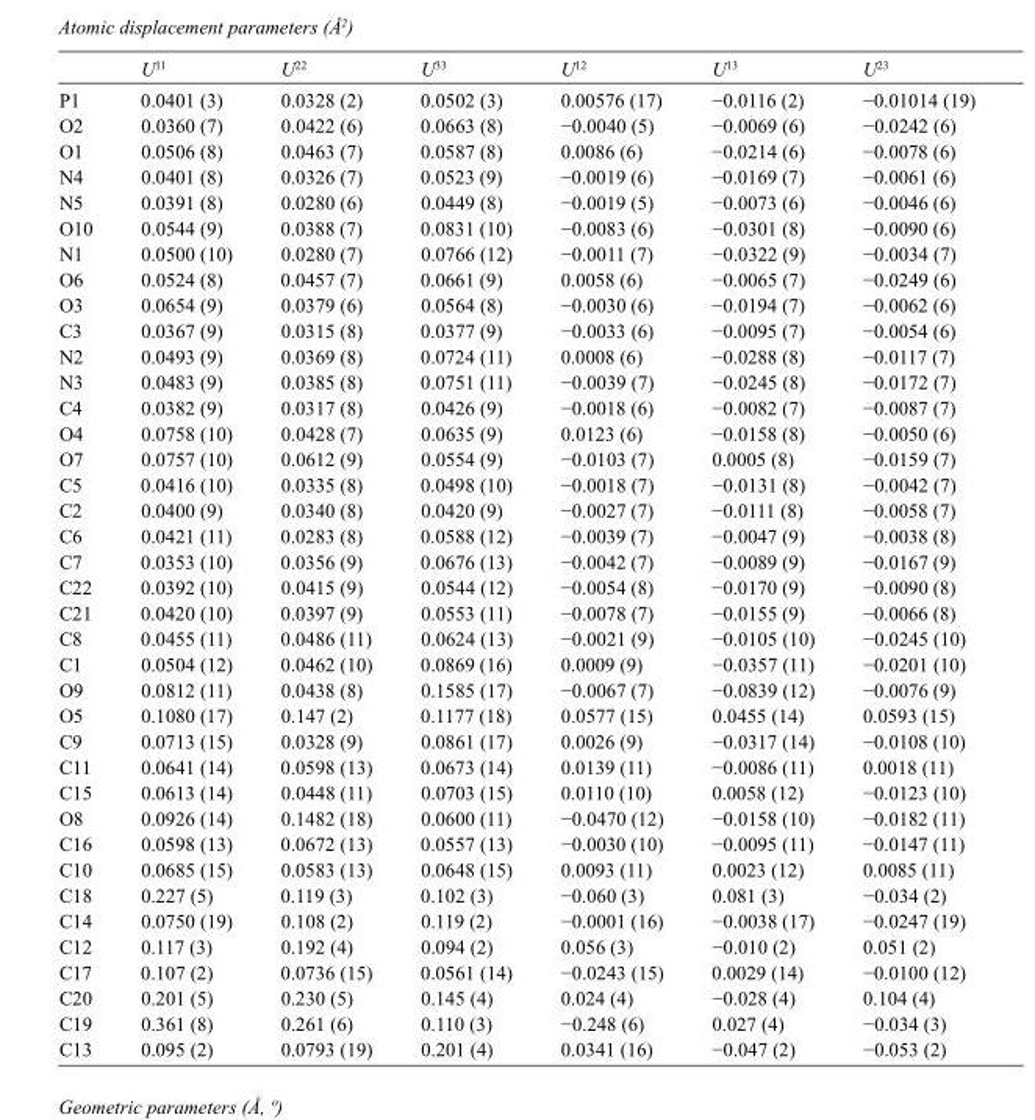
<table><thead><tr><td></td><td>U<sup>11</sup></td><td>U<sup>22</sup></td><td>U<sup>33</sup></td><td>U<sup>12</sup></td><td>U<sup>13</sup></td><td>U<sup>23</sup></td></tr></thead><tbody><tr><td>P1</td><td>0.0401 (3)</td><td>0.0328 (2)</td><td>0.0502 (3)</td><td>0.00576 (17)</td><td>−0.0116 (2)</td><td>−0.01014 (19)</td></tr><tr><td>O2</td><td>0.0360 (7)</td><td>0.0422 (6)</td><td>0.0663 (8)</td><td>−0.0040 (5)</td><td>−0.0069 (6)</td><td>−0.0242 (6)</td></tr><tr><td>O1</td><td>0.0506 (8)</td><td>0.0463 (7)</td><td>0.0587 (8)</td><td>0.0086 (6)</td><td>−0.0214 (6)</td><td>−0.0078 (6)</td></tr><tr><td>N4</td><td>0.0401 (8)</td><td>0.0326 (7)</td><td>0.0523 (9)</td><td>−0.0019 (6)</td><td>−0.0169 (7)</td><td>−0.0061 (6)</td></tr><tr><td>N5</td><td>0.0391 (8)</td><td>0.0280 (6)</td><td>0.0449 (8)</td><td>−0.0019 (5)</td><td>−0.0073 (6)</td><td>−0.0046 (6)</td></tr><tr><td>O10</td><td>0.0544 (9)</td><td>0.0388 (7)</td><td>0.0831 (10)</td><td>−0.0083 (6)</td><td>−0.0301 (8)</td><td>−0.0090 (6)</td></tr><tr><td>N1</td><td>0.0500 (10)</td><td>0.0280 (7)</td><td>0.0766 (12)</td><td>−0.0011 (7)</td><td>−0.0322 (9)</td><td>−0.0034 (7)</td></tr><tr><td>O6</td><td>0.0524 (8)</td><td>0.0457 (7)</td><td>0.0661 (9)</td><td>0.0058 (6)</td><td>−0.0065 (7)</td><td>−0.0249 (6)</td></tr><tr><td>O3</td><td>0.0654 (9)</td><td>0.0379 (6)</td><td>0.0564 (8)</td><td>−0.0030 (6)</td><td>−0.0194 (7)</td><td>−0.0062 (6)</td></tr><tr><td>C3</td><td>0.0367 (9)</td><td>0.0315 (8)</td><td>0.0377 (9)</td><td>−0.0033 (6)</td><td>−0.0095 (7)</td><td>−0.0054 (6)</td></tr><tr><td>N2</td><td>0.0493 (9)</td><td>0.0369 (8)</td><td>0.0724 (11)</td><td>0.0008 (6)</td><td>−0.0288 (8)</td><td>−0.0117 (7)</td></tr><tr><td>N3</td><td>0.0483 (9)</td><td>0.0385 (8)</td><td>0.0751 (11)</td><td>−0.0039 (7)</td><td>−0.0245 (8)</td><td>−0.0172 (7)</td></tr><tr><td>C4</td><td>0.0382 (9)</td><td>0.0317 (8)</td><td>0.0426 (9)</td><td>−0.0018 (6)</td><td>−0.0082 (7)</td><td>−0.0087 (7)</td></tr><tr><td>O4</td><td>0.0758 (10)</td><td>0.0428 (7)</td><td>0.0635 (9)</td><td>0.0123 (6)</td><td>−0.0158 (8)</td><td>−0.0050 (6)</td></tr><tr><td>O7</td><td>0.0757 (10)</td><td>0.0612 (9)</td><td>0.0554 (9)</td><td>−0.0103 (7)</td><td>0.0005 (8)</td><td>−0.0159 (7)</td></tr><tr><td>C5</td><td>0.0416 (10)</td><td>0.0335 (8)</td><td>0.0498 (10)</td><td>−0.0018 (7)</td><td>−0.0131 (8)</td><td>−0.0042 (7)</td></tr><tr><td>C2</td><td>0.0400 (9)</td><td>0.0340 (8)</td><td>0.0420 (9)</td><td>−0.0027 (7)</td><td>−0.0111 (8)</td><td>−0.0058 (7)</td></tr><tr><td>C6</td><td>0.0421 (11)</td><td>0.0283 (8)</td><td>0.0588 (12)</td><td>−0.0039 (7)</td><td>−0.0047 (9)</td><td>−0.0038 (8)</td></tr><tr><td>C7</td><td>0.0353 (10)</td><td>0.0356 (9)</td><td>0.0676 (13)</td><td>−0.0042 (7)</td><td>−0.0089 (9)</td><td>−0.0167 (9)</td></tr><tr><td>C22</td><td>0.0392 (10)</td><td>0.0415 (9)</td><td>0.0544 (12)</td><td>−0.0054 (8)</td><td>−0.0170 (9)</td><td>−0.0090 (8)</td></tr><tr><td>C21</td><td>0.0420 (10)</td><td>0.0397 (9)</td><td>0.0553 (11)</td><td>−0.0078 (7)</td><td>−0.0155 (9)</td><td>−0.0066 (8)</td></tr><tr><td>C8</td><td>0.0455 (11)</td><td>0.0486 (11)</td><td>0.0624 (13)</td><td>−0.0021 (9)</td><td>−0.0105 (10)</td><td>−0.0245 (10)</td></tr><tr><td>C1</td><td>0.0504 (12)</td><td>0.0462 (10)</td><td>0.0869 (16)</td><td>0.0009 (9)</td><td>−0.0357 (11)</td><td>−0.0201 (10)</td></tr><tr><td>O9</td><td>0.0812 (11)</td><td>0.0438 (8)</td><td>0.1585 (17)</td><td>−0.0067 (7)</td><td>−0.0839 (12)</td><td>−0.0076 (9)</td></tr><tr><td>O5</td><td>0.1080 (17)</td><td>0.147 (2)</td><td>0.1177 (18)</td><td>0.0577 (15)</td><td>0.0455 (14)</td><td>0.0593 (15)</td></tr><tr><td>C9</td><td>0.0713 (15)</td><td>0.0328 (9)</td><td>0.0861 (17)</td><td>0.0026 (9)</td><td>−0.0317 (14)</td><td>−0.0108 (10)</td></tr><tr><td>C11</td><td>0.0641 (14)</td><td>0.0598 (13)</td><td>0.0673 (14)</td><td>0.0139 (11)</td><td>−0.0086 (11)</td><td>0.0018 (11)</td></tr><tr><td>C15</td><td>0.0613 (14)</td><td>0.0448 (11)</td><td>0.0703 (15)</td><td>0.0110 (10)</td><td>0.0058 (12)</td><td>−0.0123 (10)</td></tr><tr><td>O8</td><td>0.0926 (14)</td><td>0.1482 (18)</td><td>0.0600 (11)</td><td>−0.0470 (12)</td><td>−0.0158 (10)</td><td>−0.0182 (11)</td></tr><tr><td>C16</td><td>0.0598 (13)</td><td>0.0672 (13)</td><td>0.0557 (13)</td><td>−0.0030 (10)</td><td>−0.0095 (11)</td><td>−0.0147 (11)</td></tr><tr><td>C10</td><td>0.0685 (15)</td><td>0.0583 (13)</td><td>0.0648 (15)</td><td>0.0093 (11)</td><td>0.0023 (12)</td><td>0.0085 (11)</td></tr><tr><td>C18</td><td>0.227 (5)</td><td>0.119 (3)</td><td>0.102 (3)</td><td>−0.060 (3)</td><td>0.081 (3)</td><td>−0.034 (2)</td></tr><tr><td>C14</td><td>0.0750 (19)</td><td>0.108 (2)</td><td>0.119 (2)</td><td>−0.0001 (16)</td><td>−0.0038 (17)</td><td>−0.0247 (19)</td></tr><tr><td>C12</td><td>0.117 (3)</td><td>0.192 (4)</td><td>0.094 (2)</td><td>0.056 (3)</td><td>−0.010 (2)</td><td>0.051 (2)</td></tr><tr><td>C17</td><td>0.107 (2)</td><td>0.0736 (15)</td><td>0.0561 (14)</td><td>−0.0243 (15)</td><td>0.0029 (14)</td><td>−0.0100 (12)</td></tr><tr><td>C20</td><td>0.201 (5)</td><td>0.230 (5)</td><td>0.145 (4)</td><td>0.024 (4)</td><td>−0.028 (4)</td><td>0.104 (4)</td></tr><tr><td>C19</td><td>0.361 (8)</td><td>0.261 (6)</td><td>0.110 (3)</td><td>−0.248 (6)</td><td>0.027 (4)</td><td>−0.034 (3)</td></tr><tr><td>C13</td><td>0.095 (2)</td><td>0.0793 (19)</td><td>0.201 (4)</td><td>0.0341 (16)</td><td>−0.047 (2)</td><td>−0.053 (2)</td></tr></tbody></table>